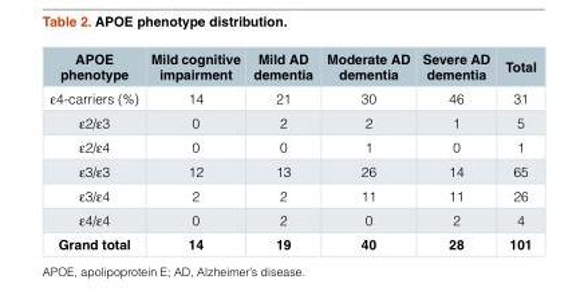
<table><thead><tr><td>APOE phenotype</td><td>Mild cognitive impairment</td><td>Mild AD dementia</td><td>Moderate AD dementia</td><td>Severe AD dementia</td><td>Total</td></tr></thead><tbody><tr><td>ε4-carriers (%)</td><td>14</td><td>21</td><td>30</td><td>46</td><td>31</td></tr><tr><td>ε2/ε3</td><td>0</td><td>2</td><td>2</td><td>1</td><td>5</td></tr><tr><td>ε2/ε4</td><td>0</td><td>0</td><td>1</td><td>0</td><td>1</td></tr><tr><td>ε3/ε3</td><td>12</td><td>13</td><td>26</td><td>14</td><td>65</td></tr><tr><td>ε3/ε4</td><td>2</td><td>2</td><td>11</td><td>11</td><td>26</td></tr><tr><td>ε4/ε4</td><td>0</td><td>2</td><td>0</td><td>2</td><td>4</td></tr><tr><td>Grand total</td><td>14</td><td>19</td><td>40</td><td>28</td><td>101</td></tr></tbody></table>